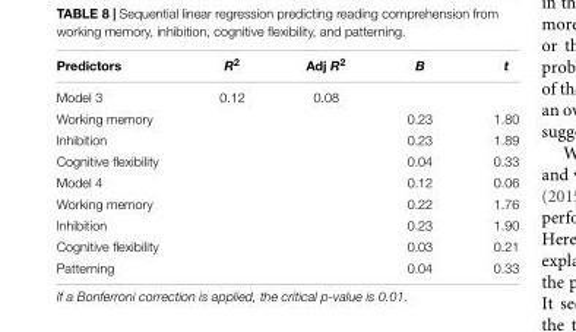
<table><thead><tr><td>Predictors</td><td>R<sup>2</sup></td><td>Adj R<sup>2</sup></td><td>B</td><td>t</td></tr></thead><tbody><tr><td>Model 3</td><td>0.12</td><td>0.08</td><td></td><td></td></tr><tr><td>Working memory</td><td></td><td></td><td>0.23</td><td>1.80</td></tr><tr><td>Inhibition</td><td></td><td></td><td>0.23</td><td>1.89</td></tr><tr><td>Cognitive flexibility</td><td></td><td></td><td>0.04</td><td>0.33</td></tr><tr><td>Model 4</td><td></td><td></td><td>0.12</td><td>0.06</td></tr><tr><td>Working memory</td><td></td><td></td><td>0.22</td><td>1.76</td></tr><tr><td>Inhibition</td><td></td><td></td><td>0.23</td><td>1.90</td></tr><tr><td>Cognitive flexibility</td><td></td><td></td><td>0.03</td><td>0.21</td></tr><tr><td>Patterning</td><td></td><td></td><td>0.04</td><td>0.33</td></tr></tbody></table>